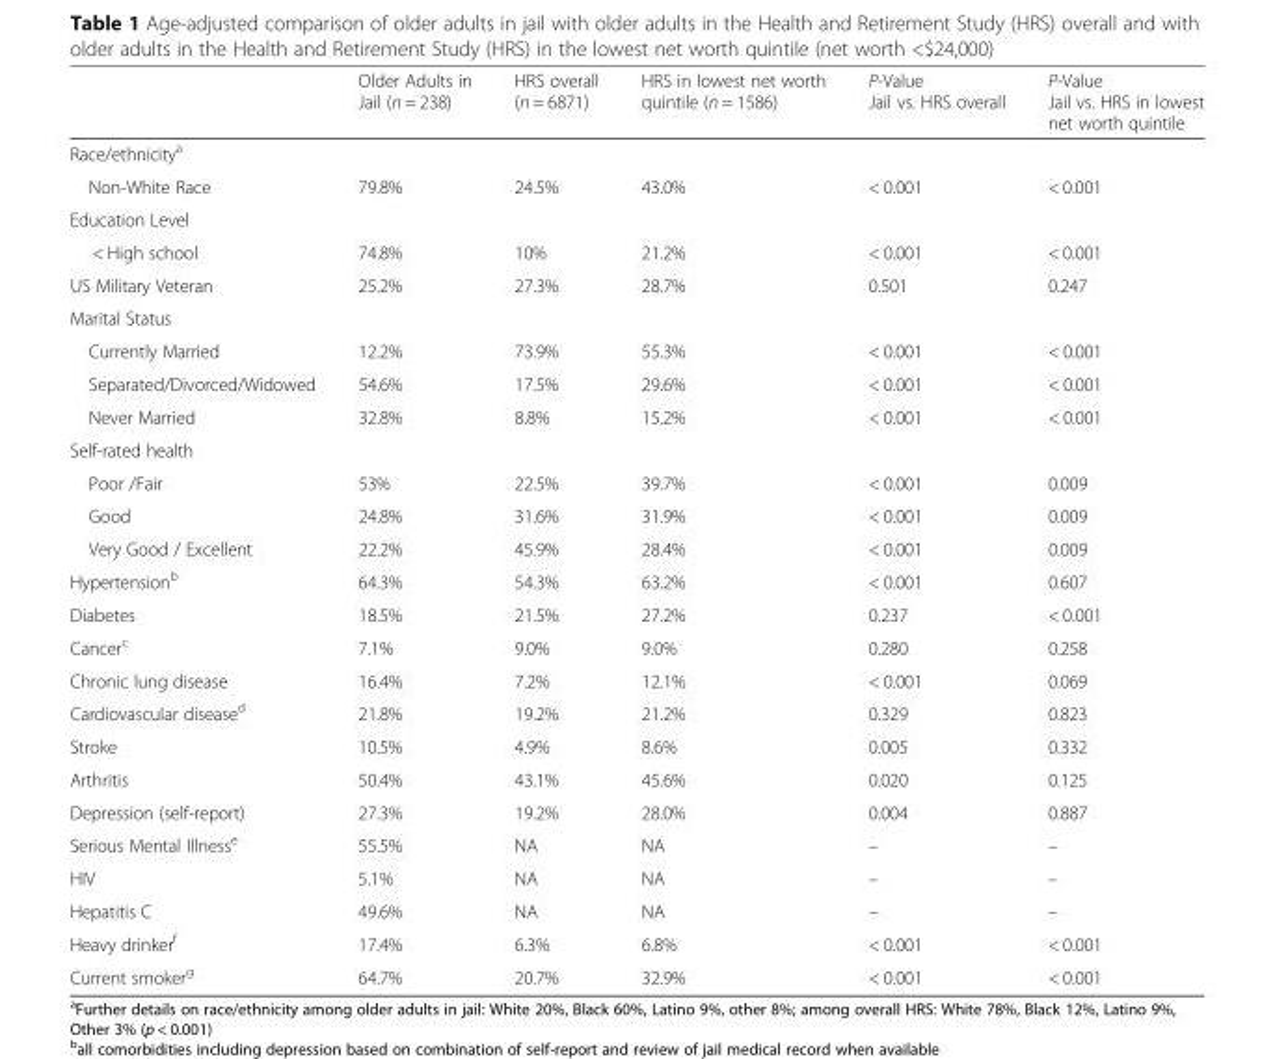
<table><thead><tr><td></td><td>Older Adults in Jail (n = 238)</td><td>HRS overall (n = 6871)</td><td>HRS in lowest net worth quintile (n = 1586)</td><td>P-Value Jail vs. HRS overall</td><td>P-Value Jail vs. HRS in lowest net worth quintile</td></tr></thead><tbody><tr><td colspan="6">Race/ethnicity<sup>a</sup></td></tr><tr><td>Non-White Race</td><td>79.8%</td><td>24.5%</td><td>43.0%</td><td>&lt; 0.001</td><td>&lt; 0.001</td></tr><tr><td colspan="6">Education Level</td></tr><tr><td>&lt; High school</td><td>74.8%</td><td>10%</td><td>21.2%</td><td>&lt; 0.001</td><td>&lt; 0.001</td></tr><tr><td>US Military Veteran</td><td>25.2%</td><td>27.3%</td><td>28.7%</td><td>0.501</td><td>0.247</td></tr><tr><td colspan="6">Marital Status</td></tr><tr><td>Currently Married</td><td>12.2%</td><td>73.9%</td><td>55.3%</td><td>&lt; 0.001</td><td>&lt; 0.001</td></tr><tr><td>Separated/Divorced/Widowed</td><td>54.6%</td><td>17.5%</td><td>29.6%</td><td>&lt; 0.001</td><td>&lt; 0.001</td></tr><tr><td>Never Married</td><td>32.8%</td><td>8.8%</td><td>15.2%</td><td>&lt; 0.001</td><td>&lt; 0.001</td></tr><tr><td colspan="6">Self-rated health</td></tr><tr><td>Poor /Fair</td><td>53%</td><td>22.5%</td><td>39.7%</td><td>&lt; 0.001</td><td>0.009</td></tr><tr><td>Good</td><td>24.8%</td><td>31.6%</td><td>31.9%</td><td>&lt; 0.001</td><td>0.009</td></tr><tr><td>Very Good / Excellent</td><td>22.2%</td><td>45.9%</td><td>28.4%</td><td>&lt; 0.001</td><td>0.009</td></tr><tr><td>Hypertension<sup>b</sup></td><td>64.3%</td><td>54.3%</td><td>63.2%</td><td>&lt; 0.001</td><td>0.607</td></tr><tr><td>Diabetes</td><td>18.5%</td><td>21.5%</td><td>27.2%</td><td>0.237</td><td>&lt; 0.001</td></tr><tr><td>Cancer<sup>c</sup></td><td>7.1%</td><td>9.0%</td><td>9.0%</td><td>0.280</td><td>0.258</td></tr><tr><td>Chronic lung disease</td><td>16.4%</td><td>7.2%</td><td>12.1%</td><td>&lt; 0.001</td><td>0.069</td></tr><tr><td>Cardiovascular disease<sup>d</sup></td><td>21.8%</td><td>19.2%</td><td>21.2%</td><td>0.329</td><td>0.823</td></tr><tr><td>Stroke</td><td>10.5%</td><td>4.9%</td><td>8.6%</td><td>0.005</td><td>0.332</td></tr><tr><td>Arthritis</td><td>50.4%</td><td>43.1%</td><td>45.6%</td><td>0.020</td><td>0.125</td></tr><tr><td>Depression (self-report)</td><td>27.3%</td><td>19.2%</td><td>28.0%</td><td>0.004</td><td>0.887</td></tr><tr><td>Serious Mental Illness<sup>e</sup></td><td>55.5%</td><td>NA</td><td>NA</td><td>–</td><td>–</td></tr><tr><td>HIV</td><td>5.1%</td><td>NA</td><td>NA</td><td>–</td><td>–</td></tr><tr><td>Hepatitis C</td><td>49.6%</td><td>NA</td><td>NA</td><td>–</td><td>–</td></tr><tr><td>Heavy drinker<sup>f</sup></td><td>17.4%</td><td>6.3%</td><td>6.8%</td><td>&lt; 0.001</td><td>&lt; 0.001</td></tr><tr><td>Current smoker<sup>g</sup></td><td>64.7%</td><td>20.7%</td><td>32.9%</td><td>&lt; 0.001</td><td>&lt; 0.001</td></tr></tbody></table>